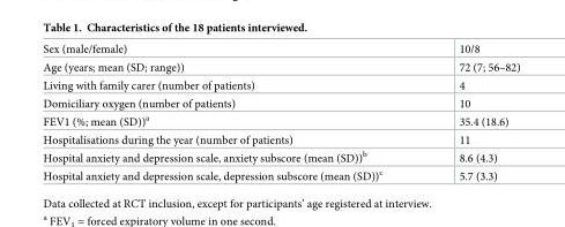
<table><tbody><tr><td>Sex (male/female)</td><td>10/8</td></tr><tr><td>Age (years; mean (SD; range))</td><td>72 (7; 56–82)</td></tr><tr><td>Living with family carer (number of patients)</td><td>4</td></tr><tr><td>Domiciliary oxygen (number of patients)</td><td>10</td></tr><tr><td>FEV1 (%; mean (SD))<sup>a</sup></td><td>35.4 (18.6)</td></tr><tr><td>Hospitalisations during the year (number of patients)</td><td>11</td></tr><tr><td>Hospital anxiety and depression scale, anxiety subscore (mean (SD))<sup>b</sup></td><td>8.6 (4.3)</td></tr><tr><td>Hospital anxiety and depression scale, depression subscore (mean (SD))<sup>c</sup></td><td>5.7 (3.3)</td></tr></tbody></table>